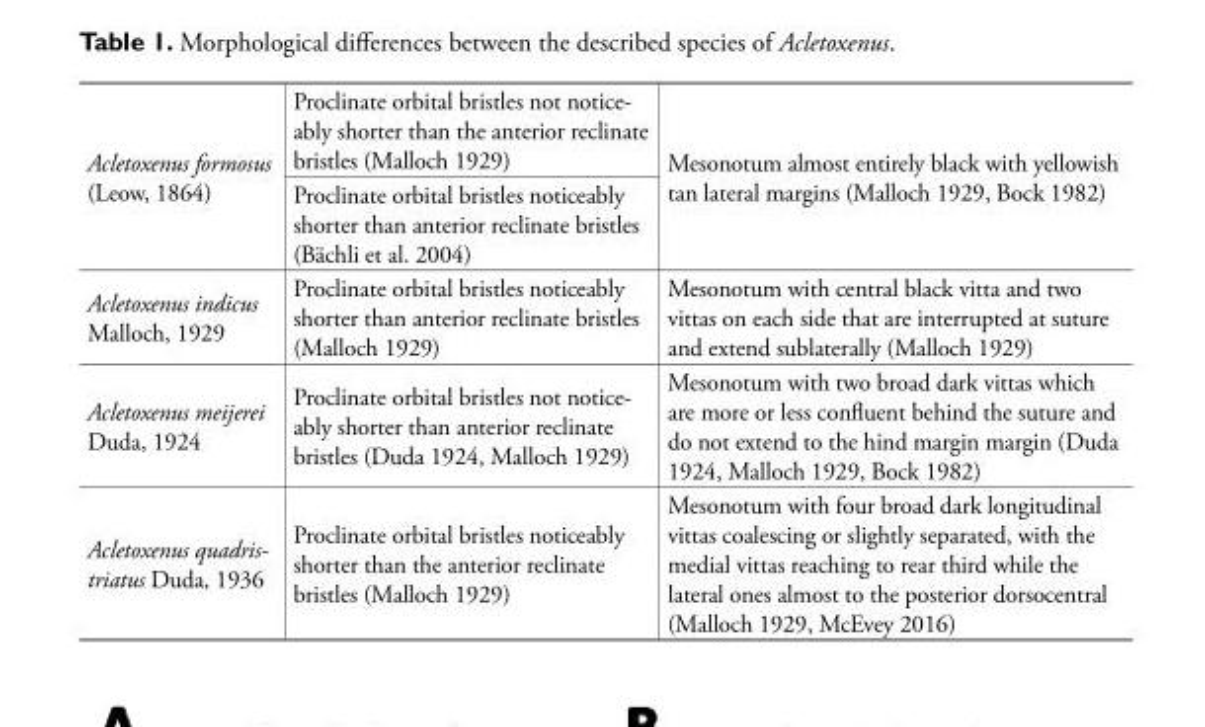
<table><tbody><tr><td rowspan="2">Acletoxenus formosus (Leow, 1864)</td><td>Proclinate orbital bristles not notice- ably shorter than the anterior reclinate bristles (Malloch 1929)</td><td rowspan="2">Mesonotum almost entirely black with yellowish tan lateral margins (Malloch 1929, Bock 1982)</td></tr><tr><td>Proclinate orbital bristles noticeably shorter than anterior reclinate bristles (Bächli et al. 2004)</td></tr><tr><td>Acletoxenus indicus Malloch, 1929</td><td>Proclinate orbital bristles noticeably shorter than anterior reclinate bristles (Malloch 1929)</td><td>Mesonotum with central black vitta and two vittas on each side that are interrupted at suture and extend sublaterally (Malloch 1929)</td></tr><tr><td>Acletoxenus meijerei Duda, 1924</td><td>Proclinate orbital bristles not notice- ably shorter than anterior reclinate bristles (Duda 1924, Malloch 1929)</td><td>Mesonotum with two broad dark vittas which are more or less confluent behind the suture and do not extend to the hind margin margin (Duda 1924, Malloch 1929, Bock 1982)</td></tr><tr><td>Acletoxenus quadris- triatus Duda, 1936</td><td>Proclinate orbital bristles noticeably shorter than the anterior reclinate bristles (Malloch 1929)</td><td>Mesonotum with four broad dark longitudinal vittas coalescing or slightly separated, with the medial vittas reaching to rear third while the lateral ones almost to the posterior dorsocentral (Malloch 1929, McEvey 2016)</td></tr></tbody></table>